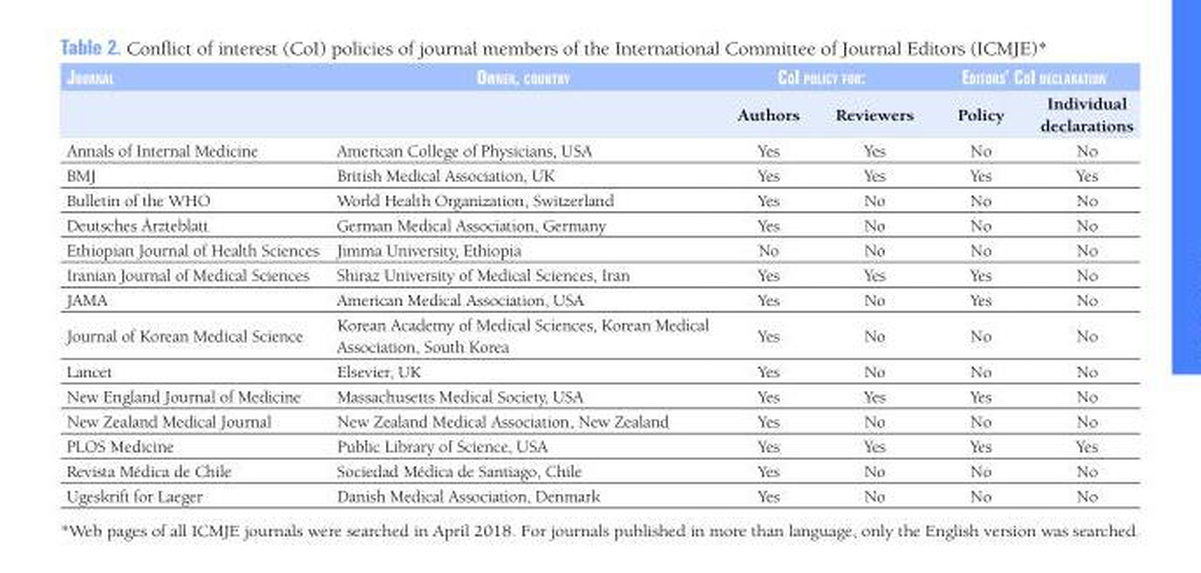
<table><thead><tr><td rowspan="2">Journal</td><td rowspan="2">owner, country</td><td colspan="2">coi policy For:</td><td colspan="2">editorS’ coi declaration</td></tr><tr><td>Authors</td><td>Reviewers</td><td>Policy</td><td>Individual declarations</td></tr></thead><tbody><tr><td>Annals of Internal Medicine</td><td>American College of Physicians, USA</td><td>Yes</td><td>Yes</td><td>No</td><td>No</td></tr><tr><td>BMJ</td><td>British Medical Association, UK</td><td>Yes</td><td>Yes</td><td>Yes</td><td>Yes</td></tr><tr><td>Bulletin of the WHO</td><td>World Health Organization, Switzerland</td><td>Yes</td><td>No</td><td>No</td><td>No</td></tr><tr><td>Deutsches Ärzteblatt</td><td>German Medical Association, Germany</td><td>Yes</td><td>No</td><td>No</td><td>No</td></tr><tr><td>Ethiopian Journal of Health Sciences</td><td>Jimma University, Ethiopia</td><td>No</td><td>No</td><td>No</td><td>No</td></tr><tr><td>Iranian Journal of Medical Sciences</td><td>Shiraz University of Medical Sciences, Iran</td><td>Yes</td><td>Yes</td><td>Yes</td><td>No</td></tr><tr><td>JAMA</td><td>American Medical Association, USA</td><td>Yes</td><td>No</td><td>Yes</td><td>No</td></tr><tr><td>Journal of Korean Medical Science</td><td>Korean Academy of Medical Sciences, Korean Medical Association, South Korea</td><td>Yes</td><td>No</td><td>No</td><td>No</td></tr><tr><td>Lancet</td><td>Elsevier, UK</td><td>Yes</td><td>No</td><td>No</td><td>No</td></tr><tr><td>New England Journal of Medicine</td><td>Massachusetts Medical Society, USA</td><td>Yes</td><td>Yes</td><td>Yes</td><td>No</td></tr><tr><td>New Zealand Medical Journal</td><td>New Zealand Medical Association, New Zealand</td><td>Yes</td><td>No</td><td>No</td><td>No</td></tr><tr><td>PLOS Medicine</td><td>Public Library of Science, USA</td><td>Yes</td><td>Yes</td><td>Yes</td><td>Yes</td></tr><tr><td>Revista Médica de Chile</td><td>Sociedad Médica de Santiago, Chile</td><td>Yes</td><td>No</td><td>No</td><td>No</td></tr><tr><td>Ugeskrift for Laeger</td><td>Danish Medical Association, Denmark</td><td>Yes</td><td>No</td><td>No</td><td>No</td></tr></tbody></table>